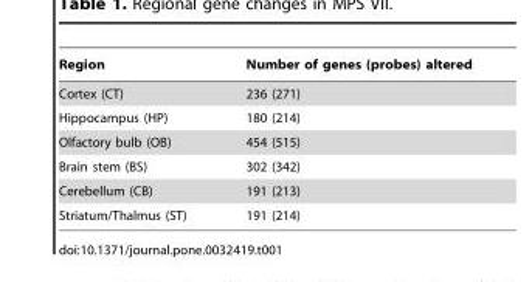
<table><thead><tr><td>Region</td><td>Number of genes (probes) altered</td></tr></thead><tbody><tr><td>Cortex (CT)</td><td>236 (271)</td></tr><tr><td>Hippocampus (HP)</td><td>180 (214)</td></tr><tr><td>Olfactory bulb (OB)</td><td>454 (515)</td></tr><tr><td>Brain stem (BS)</td><td>302 (342)</td></tr><tr><td>Cerebellum (CB)</td><td>191 (213)</td></tr><tr><td>Striatum/Thalmus (ST)</td><td>191 (214)</td></tr></tbody></table>